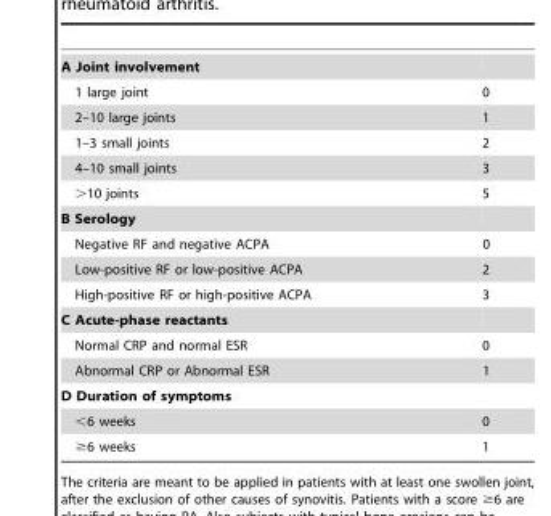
<table><tbody><tr><td colspan="2">A Joint involvement</td></tr><tr><td>1 large joint</td><td>0</td></tr><tr><td>2–10 large joints</td><td>1</td></tr><tr><td>1–3 small joints</td><td>2</td></tr><tr><td>4–10 small joints</td><td>3</td></tr><tr><td>&gt;10 joints</td><td>5</td></tr><tr><td colspan="2">B Serology</td></tr><tr><td>Negative RF and negative ACPA</td><td>0</td></tr><tr><td>Low-positive RF or low-positive ACPA</td><td>2</td></tr><tr><td>High-positive RF or high-positive ACPA</td><td>3</td></tr><tr><td colspan="2">C Acute-phase reactants</td></tr><tr><td>Normal CRP and normal ESR</td><td>0</td></tr><tr><td>Abnormal CRP or Abnormal ESR</td><td>1</td></tr><tr><td colspan="2">D Duration of symptoms</td></tr><tr><td>&lt;6 weeks</td><td>0</td></tr><tr><td>≥6 weeks</td><td>1</td></tr></tbody></table>